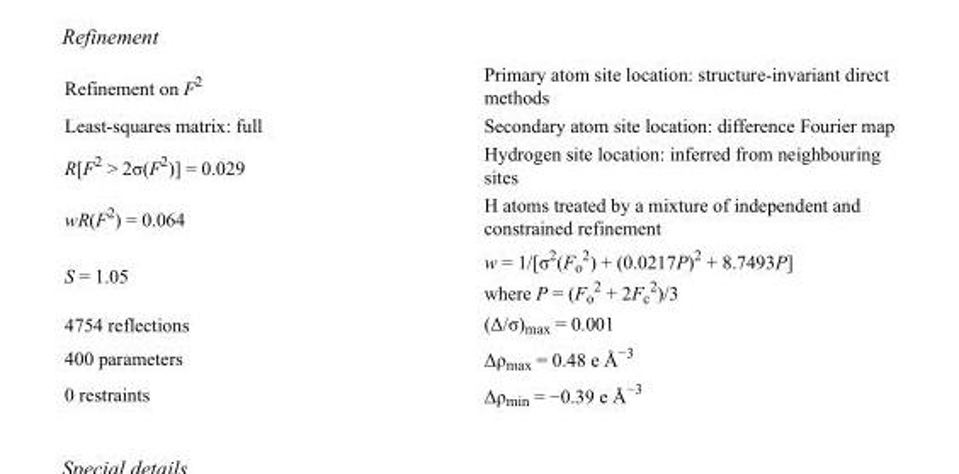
<table><tbody><tr><td>Refinement on F<sup>2</sup></td><td>Primary atom site location: structure-invariant direct methods</td></tr><tr><td>Least-squares matrix: full</td><td>Secondary atom site location: difference Fourier map</td></tr><tr><td>R[F<sup>2</sup> &gt; 2σ(F<sup>2</sup>)] = 0.029</td><td>Hydrogen site location: inferred from neighbouring sites</td></tr><tr><td>wR(F<sup>2</sup>) = 0.064</td><td>H atoms treated by a mixture of independent and constrained refinement</td></tr><tr><td>S = 1.05</td><td>w = 1/[σ<sup>2</sup>(F<sub>o</sub> <sup>2</sup>) + (0.0217P)<sup>2</sup> + 8.7493P] where P = (F<sub>o</sub> <sup>2</sup> + 2F<sub>c</sub> <sup>2</sup>)/3</td></tr><tr><td>4754 reflections</td><td>(Δ/σ)<sub>max</sub> = 0.001</td></tr><tr><td>400 parameters</td><td>Δρ<sub>max</sub> = 0.48 e Å<sup>−3</sup></td></tr><tr><td>0 restraints</td><td>Δρ<sub>min</sub> = −0.39 e Å<sup>−3</sup></td></tr></tbody></table>